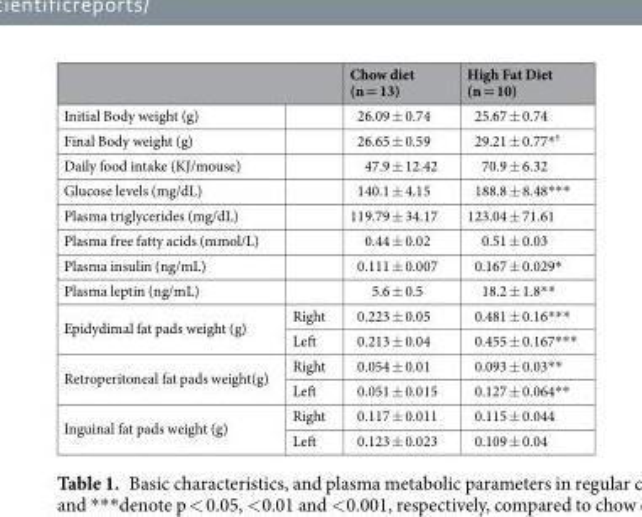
<table><thead><tr><td></td><td></td><td>Chow diet (n = 13)</td><td>High Fat Diet (n = 10)</td></tr></thead><tbody><tr><td>Initial Body weight (g)</td><td></td><td>26.09 ± 0.74</td><td>25.67 ± 0.74</td></tr><tr><td>Final Body weight (g)</td><td></td><td>26.65 ± 0.59</td><td>29.21 ± 0.77*<sup>†</sup></td></tr><tr><td>Daily food intake (KJ/mouse)</td><td></td><td>47.9 ± 12.42</td><td>70.9 ± 6.32</td></tr><tr><td>Glucose levels (mg/dL)</td><td></td><td>140.1 ± 4.15</td><td>188.8 ± 8.48***</td></tr><tr><td>Plasma triglycerides (mg/dL)</td><td></td><td>119.79 ± 34.17</td><td>123.04 ± 71.61</td></tr><tr><td>Plasma free fatty acids (mmol/L)</td><td></td><td>0.44 ± 0.02</td><td>0.51 ± 0.03</td></tr><tr><td>Plasma insulin (ng/mL)</td><td></td><td>0.111 ± 0.007</td><td>0.167 ± 0.029*</td></tr><tr><td>Plasma leptin (ng/mL)</td><td></td><td>5.6 ± 0.5</td><td>18.2 ± 1.8**</td></tr><tr><td rowspan="2">Epidydimal fat pads weight (g)</td><td>Right</td><td>0.223 ± 0.05</td><td>0.481 ± 0.16***</td></tr><tr><td>Left</td><td>0.213 ± 0.04</td><td>0.455 ± 0.167***</td></tr><tr><td rowspan="2">Retroperitoneal fat pads weight(g)</td><td>Right</td><td>0.054 ± 0.01</td><td>0.093 ± 0.03**</td></tr><tr><td>Left</td><td>0.051 ± 0.015</td><td>0.127 ± 0.064**</td></tr><tr><td rowspan="2">Inguinal fat pads weight (g)</td><td>Right</td><td>0.117 ± 0.011</td><td>0.115 ± 0.044</td></tr><tr><td>Left</td><td>0.123 ± 0.023</td><td>0.109 ± 0.04</td></tr></tbody></table>